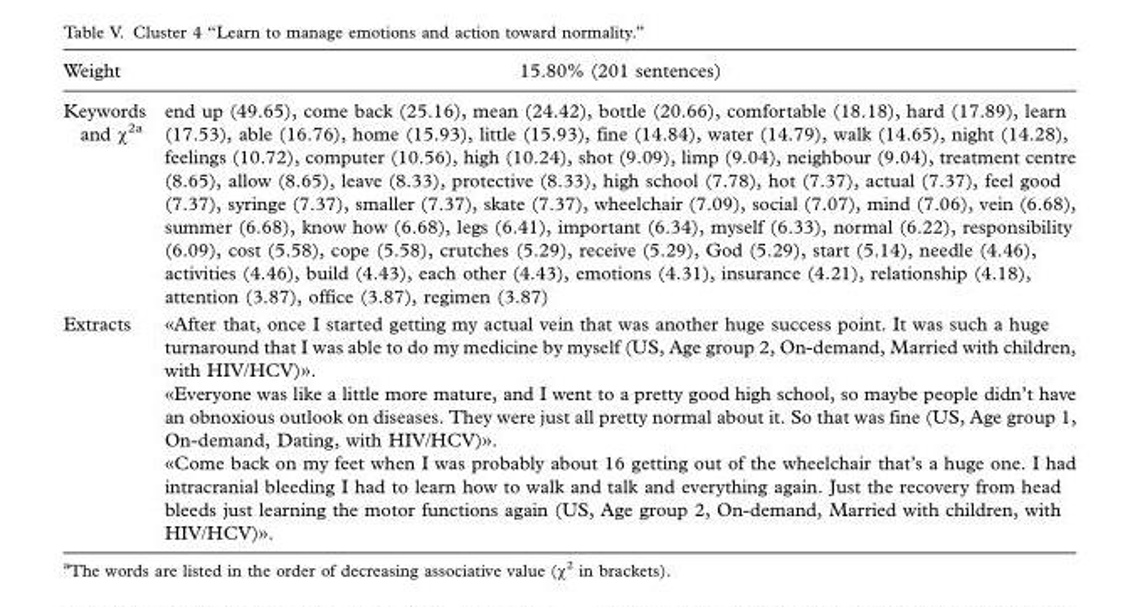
<table><thead><tr><td>Weight</td><td>15.80% (201 sentences)</td></tr></thead><tbody><tr><td>Keywords and χ<sup>2</sup>a</td><td>end up (49.65), come back (25.16), mean (24.42), bottle (20.66), comfortable (18.18), hard (17.89), learn (17.53), able (16.76), home (15.93), little (15.93), fine (14.84), water (14.79), walk (14.65), night (14.28), feelings (10.72), computer (10.56), high (10.24), shot (9.09), limp (9.04), neighbour (9.04), treatment centre (8.65), allow (8.65), leave (8.33), protective (8.33), high school (7.78), hot (7.37), actual (7.37), feel good (7.37), syringe (7.37), smaller (7.37), skate (7.37), wheelchair (7.09), social (7.07), mind (7.06), vein (6.68), summer (6.68), know how (6.68), legs (6.41), important (6.34), myself (6.33), normal (6.22), responsibility (6.09), cost (5.58), cope (5.58), crutches (5.29), receive (5.29), God (5.29), start (5.14), needle (4.46), activities (4.46), build (4.43), each other (4.43), emotions (4.31), insurance (4.21), relationship (4.18), attention (3.87), office (3.87), regimen (3.87)</td></tr><tr><td>Extracts</td><td>«After that, once I started getting my actual vein that was another huge success point. It was such a huge turnaround that I was able to do my medicine by myself (US, Age group 2, On-demand, Married with children, with HIV/HCV)». «Everyone was like a little more mature, and I went to a pretty good high school, so maybe people didn’t have an obnoxious outlook on diseases. They were just all pretty normal about it. So that was fine (US, Age group 1, On-demand, Dating, with HIV/HCV)». «Come back on my feet when I was probably about 16 getting out of the wheelchair that’s a huge one. I had intracranial bleeding I had to learn how to walk and talk and everything again. Just the recovery from head bleeds just learning the motor functions again (US, Age group 2, On-demand, Married with children, with HIV/HCV)».</td></tr></tbody></table>